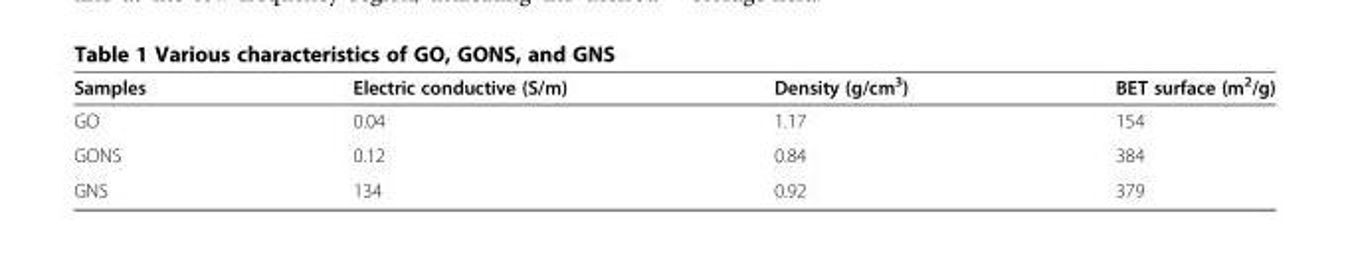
<table><thead><tr><td>Samples</td><td>Electric conductive (S/m)</td><td>Density (g/cm<sup>3</sup>)</td><td>BET surface (m<sup>2</sup>/g)</td></tr></thead><tbody><tr><td>GO</td><td>0.04</td><td>1.17</td><td>154</td></tr><tr><td>GONS</td><td>0.12</td><td>0.84</td><td>384</td></tr><tr><td>GNS</td><td>134</td><td>0.92</td><td>379</td></tr></tbody></table>